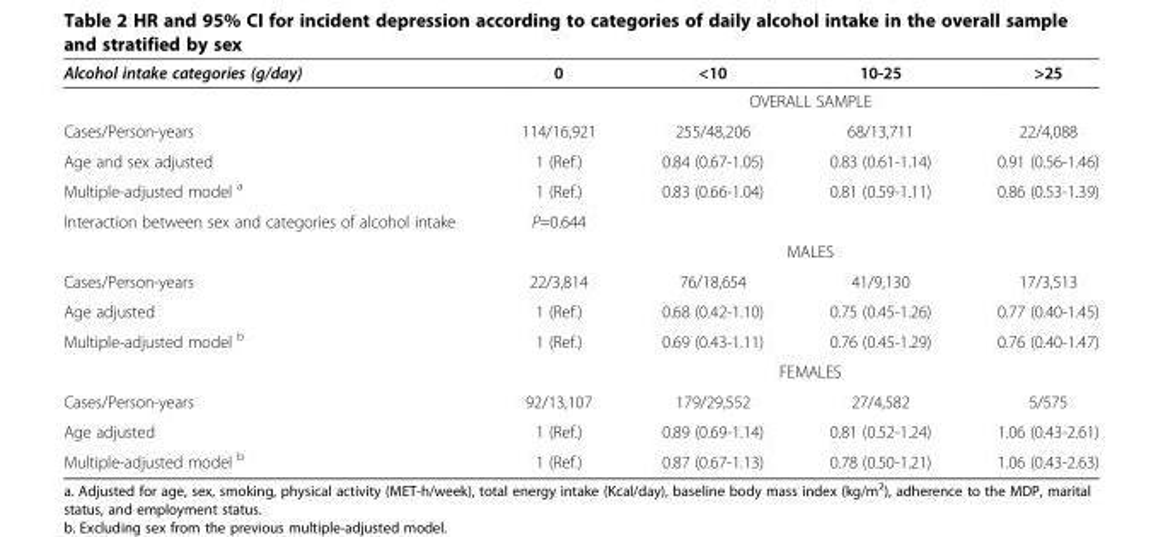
<table><thead><tr><td>Alcohol intake categories (g/day)</td><td>0</td><td>&lt;10</td><td>10-25</td><td>&gt;25</td></tr></thead><tbody><tr><td></td><td colspan="4">OVERALL SAMPLE</td></tr><tr><td>Cases/Person-years</td><td>114/16,921</td><td>255/48,206</td><td>68/13,711</td><td>22/4,088</td></tr><tr><td>Age and sex adjusted</td><td>1 (Ref.)</td><td>0.84 (0.67-1.05)</td><td>0.83 (0.61-1.14)</td><td>0.91 (0.56-1.46)</td></tr><tr><td>Multiple-adjusted model <sup>a</sup></td><td>1 (Ref.)</td><td>0.83 (0.66-1.04)</td><td>0.81 (0.59-1.11)</td><td>0.86 (0.53-1.39)</td></tr><tr><td rowspan="2">Interaction between sex and categories of alcohol intake</td><td>P=0.644</td><td></td><td></td><td></td></tr><tr><td colspan="4">MALES</td></tr><tr><td>Cases/Person-years</td><td>22/3,814</td><td>76/18,654</td><td>41/9,130</td><td>17/3,513</td></tr><tr><td>Age adjusted</td><td>1 (Ref.)</td><td>0.68 (0.42-1.10)</td><td>0.75 (0.45-1.26)</td><td>0.77 (0.40-1.45)</td></tr><tr><td rowspan="2">Multiple-adjusted model <sup>b</sup></td><td>1 (Ref.)</td><td>0.69 (0.43-1.11)</td><td>0.76 (0.45-1.29)</td><td>0.76 (0.40-1.47)</td></tr><tr><td colspan="4">FEMALES</td></tr><tr><td>Cases/Person-years</td><td>92/13,107</td><td>179/29,552</td><td>27/4,582</td><td>5/575</td></tr><tr><td>Age adjusted</td><td>1 (Ref.)</td><td>0.89 (0.69-1.14)</td><td>0.81 (0.52-1.24)</td><td>1.06 (0.43-2.61)</td></tr><tr><td>Multiple-adjusted model <sup>b</sup></td><td>1 (Ref.)</td><td>0.87 (0.67-1.13)</td><td>0.78 (0.50-1.21)</td><td>1.06 (0.43-2.63)</td></tr></tbody></table>